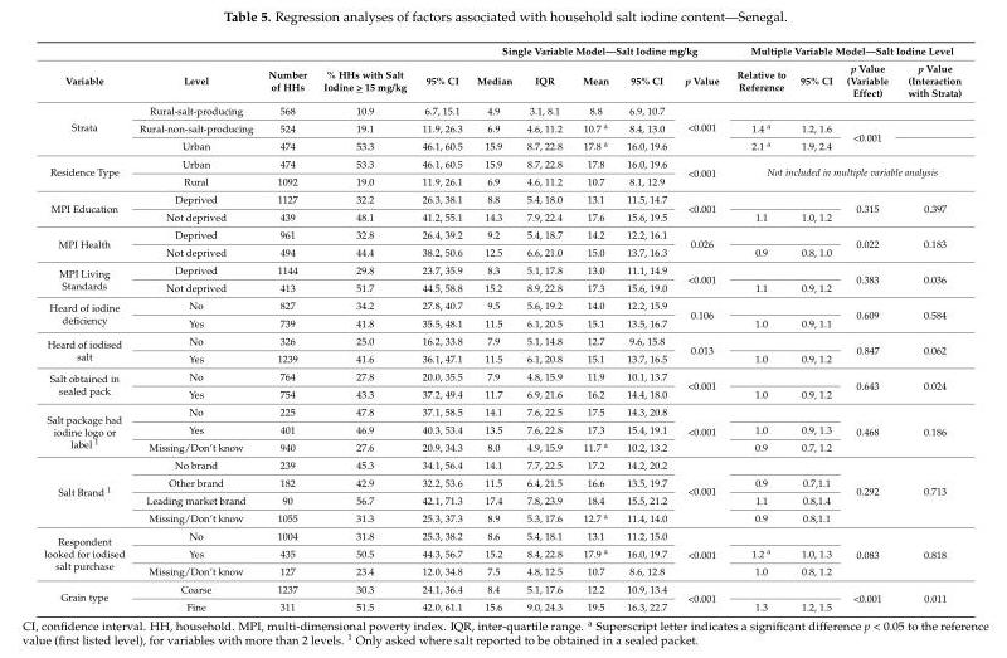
<table><thead><tr><td rowspan="2">Variable</td><td rowspan="2">Level</td><td rowspan="2">Number of HHs</td><td rowspan="2">% HHs with Salt Iodine &gt; 15 mg/kg</td><td rowspan="2">95% CI</td><td colspan="5">Single Variable Model—Salt Iodine mg/kg</td><td colspan="4">Multiple Variable Model—Salt Iodine Level</td></tr><tr><td>Median</td><td>IQR</td><td>Mean</td><td>95% CI</td><td>p Value</td><td>Relative to Reference</td><td>95% CI</td><td>p Value (Variable Effect)</td><td>p Value (Interaction with Strata)</td></tr></thead><tbody><tr><td rowspan="3">Strata</td><td>Rural-salt-producing</td><td>568</td><td>10.9</td><td>6.7, 15.1</td><td>4.9</td><td>3.1, 8.1</td><td>8.8</td><td>6.9, 10.7</td><td rowspan="3">&lt;0.001</td><td></td><td></td><td></td><td></td></tr><tr><td>Rural-non-salt-producing</td><td>524</td><td>19.1</td><td>11.9, 26.3</td><td>6.9</td><td>4.6, 11.2</td><td>10.7 <sup>a</sup></td><td>8.4, 13.0</td><td>1.4 <sup>a</sup></td><td>1.2, 1.6</td><td rowspan="2">&lt;0.001</td><td></td></tr><tr><td>Urban</td><td>474</td><td>53.3</td><td>46.1, 60.5</td><td>15.9</td><td>8.7, 22.8</td><td>17.8 <sup>a</sup></td><td>16.0, 19.6</td><td>2.1 <sup>a</sup></td><td>1.9, 2.4</td><td></td></tr><tr><td rowspan="2">Residence Type</td><td>Urban</td><td>474</td><td>53.3</td><td>46.1, 60.5</td><td>15.9</td><td>8.7, 22.8</td><td>17.8</td><td>16.0, 19.6</td><td rowspan="2">&lt;0.001</td><td rowspan="2" colspan="4">Not included in multiple variable analysis</td></tr><tr><td>Rural</td><td>1092</td><td>19.0</td><td>11.9, 26.1</td><td>6.9</td><td>4.6, 11.2</td><td>10.7</td><td>8.1, 12.9</td></tr><tr><td rowspan="2">MPI Education</td><td>Deprived</td><td>1127</td><td>32.2</td><td>26.3, 38.1</td><td>8.8</td><td>5.4, 18.0</td><td>13.1</td><td>11.5, 14.7</td><td rowspan="2">&lt;0.001</td><td></td><td></td><td rowspan="2">0.315</td><td rowspan="2">0.397</td></tr><tr><td>Not deprived</td><td>439</td><td>48.1</td><td>41.2, 55.1</td><td>14.3</td><td>7.9, 22.4</td><td>17.6</td><td>15.6, 19.5</td><td>1.1</td><td>1.0, 1.2</td></tr><tr><td rowspan="2">MPI Health</td><td>Deprived</td><td>961</td><td>32.8</td><td>26.4, 39.2</td><td>9.2</td><td>5.4, 18.7</td><td>14.2</td><td>12.2, 16.1</td><td rowspan="2">0.026</td><td></td><td></td><td rowspan="2">0.022</td><td rowspan="2">0.183</td></tr><tr><td>Not deprived</td><td>494</td><td>44.4</td><td>38.2, 50.6</td><td>12.5</td><td>6.6, 21.0</td><td>15.0</td><td>13.7, 16.3</td><td>0.9</td><td>0.8, 1.0</td></tr><tr><td rowspan="2">MPI Living Standards</td><td>Deprived</td><td>1144</td><td>29.8</td><td>23.7, 35.9</td><td>8.3</td><td>5.1, 17.8</td><td>13.0</td><td>11.1, 14.9</td><td rowspan="2">&lt;0.001</td><td></td><td></td><td rowspan="2">0.383</td><td rowspan="2">0.036</td></tr><tr><td>Not deprived</td><td>413</td><td>51.7</td><td>44.5, 58.8</td><td>15.2</td><td>8.9, 22.8</td><td>17.3</td><td>15.6, 19.0</td><td>1.1</td><td>0.9, 1.2</td></tr><tr><td rowspan="2">Heard of iodine deficiency</td><td>No</td><td>827</td><td>34.2</td><td>27.8, 40.7</td><td>9.5</td><td>5.6, 19.2</td><td>14.0</td><td>12.2, 15.9</td><td rowspan="2">0.106</td><td></td><td></td><td rowspan="2">0.609</td><td rowspan="2">0.584</td></tr><tr><td>Yes</td><td>739</td><td>41.8</td><td>35.5, 48.1</td><td>11.5</td><td>6.1, 20.5</td><td>15.1</td><td>13.5, 16.7</td><td>1.0</td><td>0.9, 1.1</td></tr><tr><td rowspan="2">Heard of iodised salt</td><td>No</td><td>326</td><td>25.0</td><td>16.2, 33.8</td><td>7.9</td><td>5.1, 14.8</td><td>12.7</td><td>9.6, 15.8</td><td rowspan="2">0.013</td><td></td><td></td><td rowspan="2">0.847</td><td rowspan="2">0.062</td></tr><tr><td>Yes</td><td>1239</td><td>41.6</td><td>36.1, 47.1</td><td>11.5</td><td>6.1, 20.8</td><td>15.1</td><td>13.7, 16.5</td><td>1.0</td><td>0.9, 1.2</td></tr><tr><td rowspan="2">Salt obtained in sealed pack</td><td>No</td><td>764</td><td>27.8</td><td>20.0, 35.5</td><td>7.9</td><td>4.8, 15.9</td><td>11.9</td><td>10.1, 13.7</td><td rowspan="2">&lt;0.001</td><td></td><td></td><td rowspan="2">0.643</td><td rowspan="2">0.024</td></tr><tr><td>Yes</td><td>754</td><td>43.3</td><td>37.2, 49.4</td><td>11.7</td><td>6.9, 21.6</td><td>16.2</td><td>14.4, 18.0</td><td>1.0</td><td>0.9, 1.2</td></tr><tr><td rowspan="3">Salt package had iodine logo or label <sup>1</sup></td><td>No</td><td>225</td><td>47.8</td><td>37.1, 58.5</td><td>14.1</td><td>7.6, 22.5</td><td>17.5</td><td>14.3, 20.8</td><td rowspan="3">&lt;0.001</td><td></td><td></td><td rowspan="3">0.468</td><td rowspan="3">0.186</td></tr><tr><td>Yes</td><td>401</td><td>46.9</td><td>40.3, 53.4</td><td>13.5</td><td>7.6, 22.8</td><td>17.3</td><td>15.4, 19.1</td><td>1.0</td><td>0.9, 1.3</td></tr><tr><td>Missing/Don’t know</td><td>940</td><td>27.6</td><td>20.9, 34.3</td><td>8.0</td><td>4.9, 15.9</td><td>11.7 <sup>a</sup></td><td>10.2, 13.2</td><td>0.9</td><td>0.7, 1.2</td></tr><tr><td rowspan="4">Salt Brand <sup>1</sup></td><td>No brand</td><td>239</td><td>45.3</td><td>34.1, 56.4</td><td>14.1</td><td>7.7, 22.5</td><td>17.2</td><td>14.2, 20.2</td><td rowspan="4">&lt;0.001</td><td></td><td></td><td rowspan="4">0.292</td><td rowspan="4">0.713</td></tr><tr><td>Other brand</td><td>182</td><td>42.9</td><td>32.2, 53.6</td><td>11.5</td><td>6.4, 21.5</td><td>16.6</td><td>13.5, 19.7</td><td>0.9</td><td>0.7,1.1</td></tr><tr><td>Leading market brand</td><td>90</td><td>56.7</td><td>42.1, 71.3</td><td>17.4</td><td>7.8, 23.9</td><td>18.4</td><td>15.5, 21.2</td><td>1.1</td><td>0.8,1.4</td></tr><tr><td>Missing/Don’t know</td><td>1055</td><td>31.3</td><td>25.3, 37.3</td><td>8.9</td><td>5.3, 17.6</td><td>12.7 <sup>a</sup></td><td>11.4, 14.0</td><td>0.9</td><td>0.8,1.1</td></tr><tr><td rowspan="3">Respondent looked for iodised salt purchase</td><td>No</td><td>1004</td><td>31.8</td><td>25.3, 38.2</td><td>8.6</td><td>5.4, 18.1</td><td>13.1</td><td>11.2, 15.0</td><td rowspan="3">&lt;0.001</td><td></td><td></td><td rowspan="3">0.083</td><td rowspan="3">0.818</td></tr><tr><td>Yes</td><td>435</td><td>50.5</td><td>44.3, 56.7</td><td>15.2</td><td>8.4, 22.8</td><td>17.9 <sup>a</sup></td><td>16.0, 19.7</td><td>1.2 <sup>a</sup></td><td>1.0, 1.3</td></tr><tr><td>Missing/Don’t know</td><td>127</td><td>23.4</td><td>12.0, 34.8</td><td>7.5</td><td>4.8, 12.5</td><td>10.7</td><td>8.6, 12.8</td><td>1.0</td><td>0.8, 1.2</td></tr><tr><td rowspan="2">Grain type</td><td>Coarse</td><td>1237</td><td>30.3</td><td>24.1, 36.4</td><td>8.4</td><td>5.1, 17.6</td><td>12.2</td><td>10.9, 13.4</td><td rowspan="2">&lt;0.001</td><td></td><td></td><td rowspan="2">&lt;0.001</td><td rowspan="2">0.011</td></tr><tr><td>Fine</td><td>311</td><td>51.5</td><td>42.0, 61.1</td><td>15.6</td><td>9.0, 24.3</td><td>19.5</td><td>16.3, 22.7</td><td>1.3</td><td>1.2, 1.5</td></tr></tbody></table>